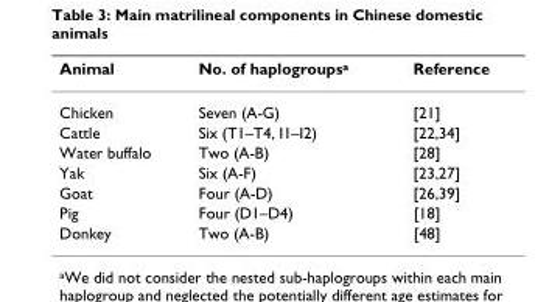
<table><thead><tr><td>Animal</td><td>No. of haplogroups<sup>a</sup></td><td>Reference</td></tr></thead><tbody><tr><td>Chicken</td><td>Seven (A-G)</td><td>[21]</td></tr><tr><td>Cattle</td><td>Six (T1–T4, I1–I2)</td><td>[22,34]</td></tr><tr><td>Water buffalo</td><td>Two (A-B)</td><td>[28]</td></tr><tr><td>Yak</td><td>Six (A-F)</td><td>[23,27]</td></tr><tr><td>Goat</td><td>Four (A-D)</td><td>[26,39]</td></tr><tr><td>Pig</td><td>Four (D1–D4)</td><td>[18]</td></tr><tr><td>Donkey</td><td>Two (A-B)</td><td>[48]</td></tr></tbody></table>